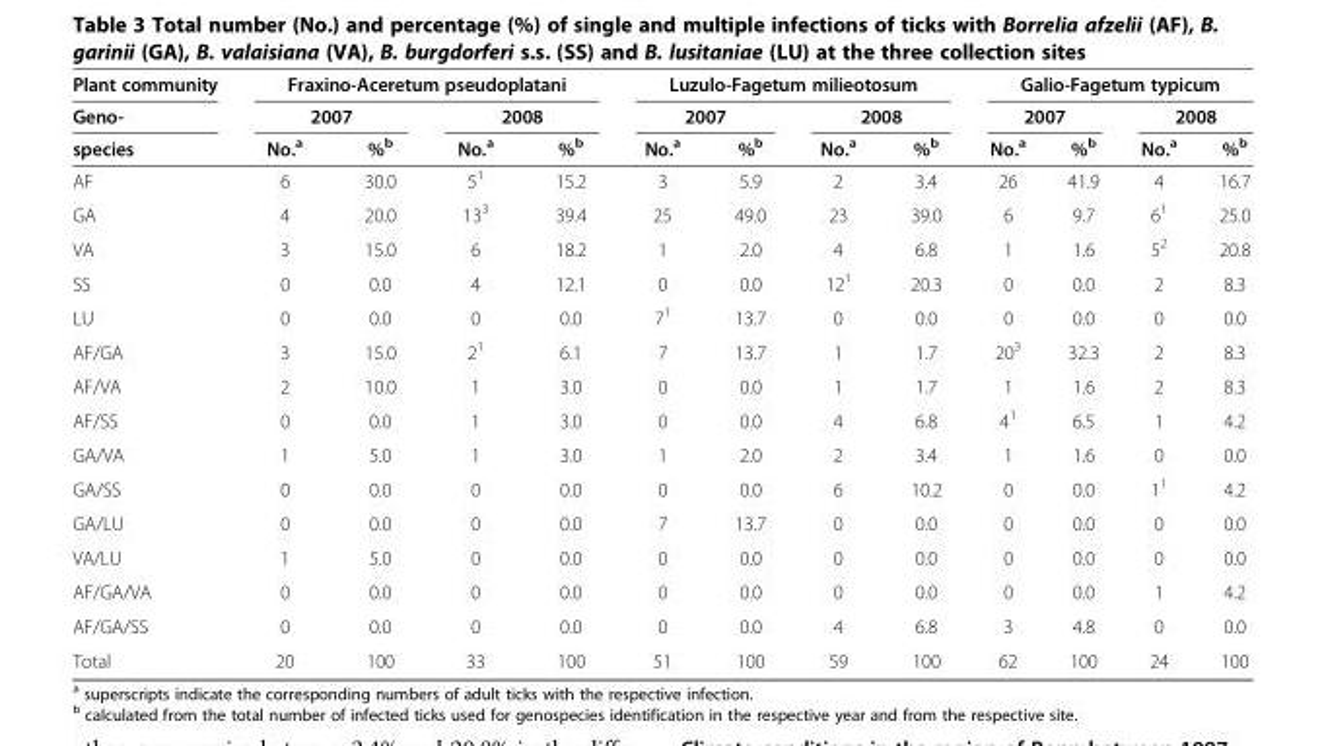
<table><thead><tr><td rowspan="3">Plant community Geno- species</td><td colspan="4">Fraxino-Aceretum pseudoplatani</td><td colspan="4">Luzulo-Fagetum milieotosum</td><td colspan="4">Galio-Fagetum typicum</td></tr><tr><td colspan="2">2007</td><td colspan="2">2008</td><td colspan="2">2007</td><td colspan="2">2008</td><td colspan="2">2007</td><td colspan="2">2008</td></tr><tr><td>No.<sup>a</sup></td><td>%<sup>b</sup></td><td>No.<sup>a</sup></td><td>%<sup>b</sup></td><td>No.<sup>a</sup></td><td>%<sup>b</sup></td><td>No.<sup>a</sup></td><td>%<sup>b</sup></td><td>No.<sup>a</sup></td><td>%<sup>b</sup></td><td>No.<sup>a</sup></td><td>%<sup>b</sup></td></tr></thead><tbody><tr><td>AF</td><td>6</td><td>30.0</td><td>5<sup>1</sup></td><td>15.2</td><td>3</td><td>5.9</td><td>2</td><td>3.4</td><td>26</td><td>41.9</td><td>4</td><td>16.7</td></tr><tr><td>GA</td><td>4</td><td>20.0</td><td>13<sup>3</sup></td><td>39.4</td><td>25</td><td>49.0</td><td>23</td><td>39.0</td><td>6</td><td>9.7</td><td>6<sup>1</sup></td><td>25.0</td></tr><tr><td>VA</td><td>3</td><td>15.0</td><td>6</td><td>18.2</td><td>1</td><td>2.0</td><td>4</td><td>6.8</td><td>1</td><td>1.6</td><td>5<sup>2</sup></td><td>20.8</td></tr><tr><td>SS</td><td>0</td><td>0.0</td><td>4</td><td>12.1</td><td>0</td><td>0.0</td><td>12<sup>1</sup></td><td>20.3</td><td>0</td><td>0.0</td><td>2</td><td>8.3</td></tr><tr><td>LU</td><td>0</td><td>0.0</td><td>0</td><td>0.0</td><td>7<sup>1</sup></td><td>13.7</td><td>0</td><td>0.0</td><td>0</td><td>0.0</td><td>0</td><td>0.0</td></tr><tr><td>AF/GA</td><td>3</td><td>15.0</td><td>2<sup>1</sup></td><td>6.1</td><td>7</td><td>13.7</td><td>1</td><td>1.7</td><td>20<sup>3</sup></td><td>32.3</td><td>2</td><td>8.3</td></tr><tr><td>AF/VA</td><td>2</td><td>10.0</td><td>1</td><td>3.0</td><td>0</td><td>0.0</td><td>1</td><td>1.7</td><td>1</td><td>1.6</td><td>2</td><td>8.3</td></tr><tr><td>AF/SS</td><td>0</td><td>0.0</td><td>1</td><td>3.0</td><td>0</td><td>0.0</td><td>4</td><td>6.8</td><td>4<sup>1</sup></td><td>6.5</td><td>1</td><td>4.2</td></tr><tr><td>GA/VA</td><td>1</td><td>5.0</td><td>1</td><td>3.0</td><td>1</td><td>2.0</td><td>2</td><td>3.4</td><td>1</td><td>1.6</td><td>0</td><td>0.0</td></tr><tr><td>GA/SS</td><td>0</td><td>0.0</td><td>0</td><td>0.0</td><td>0</td><td>0.0</td><td>6</td><td>10.2</td><td>0</td><td>0.0</td><td>1<sup>1</sup></td><td>4.2</td></tr><tr><td>GA/LU</td><td>0</td><td>0.0</td><td>0</td><td>0.0</td><td>7</td><td>13.7</td><td>0</td><td>0.0</td><td>0</td><td>0.0</td><td>0</td><td>0.0</td></tr><tr><td>VA/LU</td><td>1</td><td>5.0</td><td>0</td><td>0.0</td><td>0</td><td>0.0</td><td>0</td><td>0.0</td><td>0</td><td>0.0</td><td>0</td><td>0.0</td></tr><tr><td>AF/GA/VA</td><td>0</td><td>0.0</td><td>0</td><td>0.0</td><td>0</td><td>0.0</td><td>0</td><td>0.0</td><td>0</td><td>0.0</td><td>1</td><td>4.2</td></tr><tr><td>AF/GA/SS</td><td>0</td><td>0.0</td><td>0</td><td>0.0</td><td>0</td><td>0.0</td><td>4</td><td>6.8</td><td>3</td><td>4.8</td><td>0</td><td>0.0</td></tr><tr><td>Total</td><td>20</td><td>100</td><td>33</td><td>100</td><td>51</td><td>100</td><td>59</td><td>100</td><td>62</td><td>100</td><td>24</td><td>100</td></tr></tbody></table>